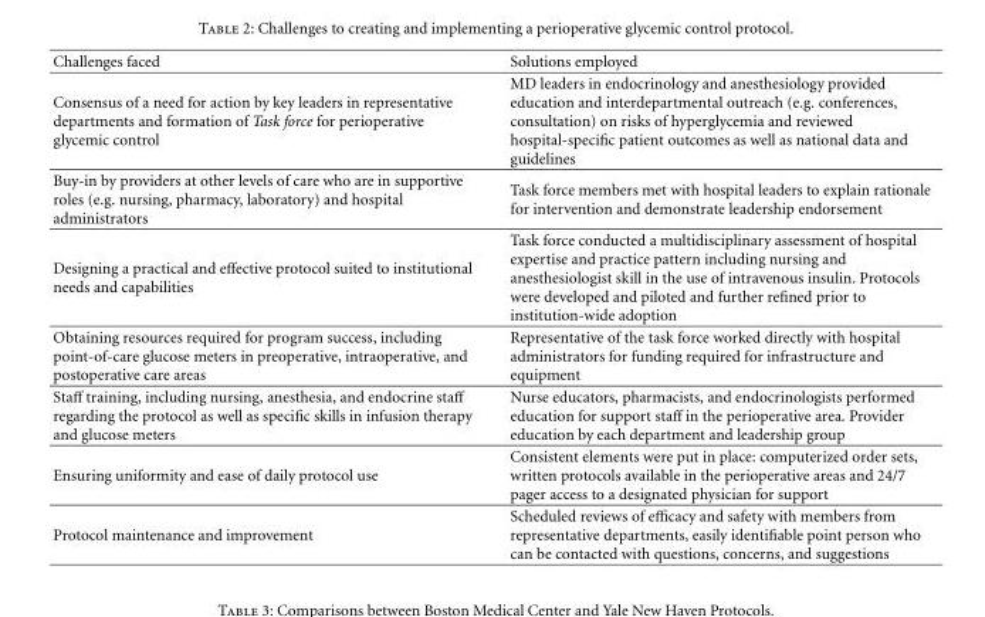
<table><thead><tr><td>Challenges faced</td><td>Solutions employed</td></tr></thead><tbody><tr><td>Consensus of a need for action by key leaders in representative departments and formation of Task force for perioperative glycemic control</td><td>MD leaders in endocrinology and anesthesiology provided education and interdepartmental outreach (e.g. conferences, consultation) on risks of hyperglycemia and reviewed hospital-specific patient outcomes as well as national data and guidelines</td></tr><tr><td>Buy-in by providers at other levels of care who are in supportive roles (e.g. nursing, pharmacy, laboratory) and hospital administrators</td><td>Task force members met with hospital leaders to explain rationale for intervention and demonstrate leadership endorsement</td></tr><tr><td>Designing a practical and effective protocol suited to institutional needs and capabilities</td><td>Task force conducted a multidisciplinary assessment of hospital expertise and practice pattern including nursing and anesthesiologist skill in the use of intravenous insulin. Protocols were developed and piloted and further refined prior to institution-wide adoption</td></tr><tr><td>Obtaining resources required for program success, including point-of-care glucose meters in preoperative, intraoperative, and postoperative care areas</td><td>Representative of the task force worked directly with hospital administrators for funding required for infrastructure and equipment</td></tr><tr><td>Staff training, including nursing, anesthesia, and endocrine staff regarding the protocol as well as specific skills in infusion therapy and glucose meters</td><td>Nurse educators, pharmacists, and endocrinologists performed education for support staff in the perioperative area. Provider education by each department and leadership group</td></tr><tr><td>Ensuring uniformity and ease of daily protocol use</td><td>Consistent elements were put in place: computerized order sets, written protocols available in the perioperative areas and 24/7 pager access to a designated physician for support</td></tr><tr><td>Protocol maintenance and improvement</td><td>Scheduled reviews of efficacy and safety with members from representative departments, easily identifiable point person who can be contacted with questions, concerns, and suggestions</td></tr></tbody></table>